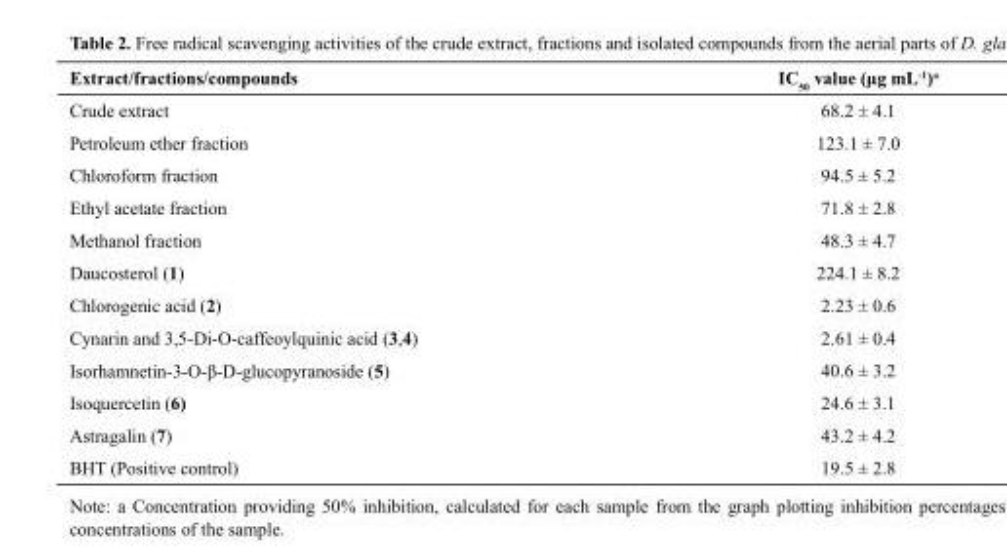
<table><thead><tr><td>Extract/fractions/compounds</td><td>IC<sub>50</sub> value (μg mL<sup>-1</sup>)<sup>a</sup></td></tr></thead><tbody><tr><td>Crude extract</td><td>68.2 ± 4.1</td></tr><tr><td>Petroleum ether fraction</td><td>123.1 ± 7.0</td></tr><tr><td>Chloroform fraction</td><td>94.5 ± 5.2</td></tr><tr><td>Ethyl acetate fraction</td><td>71.8 ± 2.8</td></tr><tr><td>Methanol fraction</td><td>48.3 ± 4.7</td></tr><tr><td>Daucosterol (1)</td><td>224.1 ± 8.2</td></tr><tr><td>Chlorogenic acid (2)</td><td>2.23 ± 0.6</td></tr><tr><td>Cynarin and 3,5-Di-O-caffeoylquinic acid (3,4)</td><td>2.61 ± 0.4</td></tr><tr><td>Isorhamnetin-3-O-β-D-glucopyranoside (5)</td><td>40.6 ± 3.2</td></tr><tr><td>Isoquercetin (6)</td><td>24.6 ± 3.1</td></tr><tr><td>Astragalin (7)</td><td>43.2 ± 4.2</td></tr><tr><td>BHT (Positive control)</td><td>19.5 ± 2.8</td></tr></tbody></table>